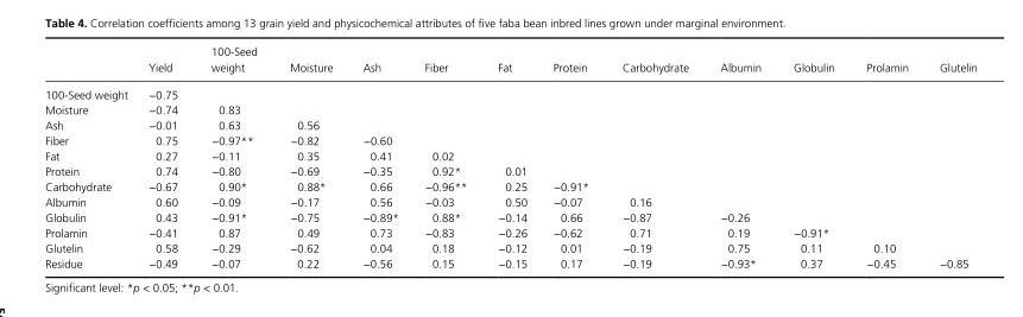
<table><thead><tr><td></td><td>Yield</td><td>100- Seed weight</td><td>Moisture</td><td>Ash</td><td>Fiber</td><td>Fat</td><td>Protein</td><td>Carbohydrate</td><td>Albumin</td><td>Globulin</td><td>Prolamin</td><td>Glutelin</td></tr></thead><tbody><tr><td>100- Seed weight</td><td>−0.75</td><td></td><td></td><td></td><td></td><td></td><td></td><td></td><td></td><td></td><td></td><td></td></tr><tr><td>Moisture</td><td>−0.74</td><td>0.83</td><td></td><td></td><td></td><td></td><td></td><td></td><td></td><td></td><td></td><td></td></tr><tr><td>Ash</td><td>−0.01</td><td>0.63</td><td>0.56</td><td></td><td></td><td></td><td></td><td></td><td></td><td></td><td></td><td></td></tr><tr><td>Fiber</td><td>0.75</td><td>−0.97**</td><td>−0.82</td><td>−0.60</td><td></td><td></td><td></td><td></td><td></td><td></td><td></td><td></td></tr><tr><td>Fat</td><td>0.27</td><td>−0.11</td><td>0.35</td><td>0.41</td><td>0.02</td><td></td><td></td><td></td><td></td><td></td><td></td><td></td></tr><tr><td>Protein</td><td>0.74</td><td>−0.80</td><td>−0.69</td><td>−0.35</td><td>0.92*</td><td>0.01</td><td></td><td></td><td></td><td></td><td></td><td></td></tr><tr><td>Carbohydrate</td><td>−0.67</td><td>0.90*</td><td>0.88*</td><td>0.66</td><td>−0.96**</td><td>0.25</td><td>−0.91*</td><td></td><td></td><td></td><td></td><td></td></tr><tr><td>Albumin</td><td>0.60</td><td>−0.09</td><td>−0.17</td><td>0.56</td><td>−0.03</td><td>0.50</td><td>−0.07</td><td>0.16</td><td></td><td></td><td></td><td></td></tr><tr><td>Globulin</td><td>0.43</td><td>−0.91*</td><td>−0.75</td><td>−0.89*</td><td>0.88*</td><td>−0.14</td><td>0.66</td><td>−0.87</td><td>−0.26</td><td></td><td></td><td></td></tr><tr><td>Prolamin</td><td>−0.41</td><td>0.87</td><td>0.49</td><td>0.73</td><td>−0.83</td><td>−0.26</td><td>−0.62</td><td>0.71</td><td>0.19</td><td>−0.91*</td><td></td><td></td></tr><tr><td>Glutelin</td><td>0.58</td><td>−0.29</td><td>−0.62</td><td>0.04</td><td>0.18</td><td>−0.12</td><td>0.01</td><td>−0.19</td><td>0.75</td><td>0.11</td><td>0.10</td><td></td></tr><tr><td>Residue</td><td>−0.49</td><td>−0.07</td><td>0.22</td><td>−0.56</td><td>0.15</td><td>−0.15</td><td>0.17</td><td>−0.19</td><td>−0.93*</td><td>0.37</td><td>−0.45</td><td>−0.85</td></tr></tbody></table>